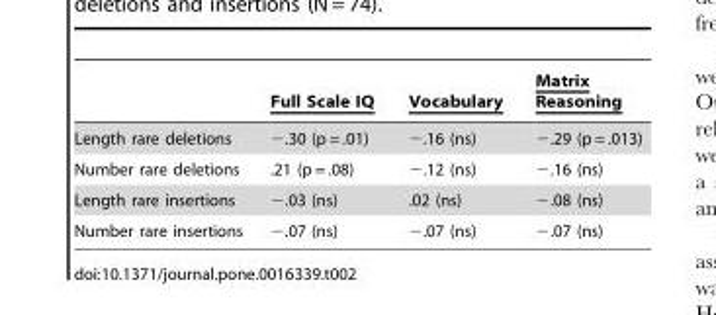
<table><thead><tr><td></td><td>Full Scale IQ</td><td>Vocabulary</td><td>Matrix Reasoning</td></tr></thead><tbody><tr><td>Length rare deletions</td><td>−.30 (p = .01)</td><td>−.16 (ns)</td><td>−.29 (p = .013)</td></tr><tr><td>Number rare deletions</td><td>.21 (p = .08)</td><td>−.12 (ns)</td><td>−.16 (ns)</td></tr><tr><td>Length rare insertions</td><td>−.03 (ns)</td><td>.02 (ns)</td><td>−.08 (ns)</td></tr><tr><td>Number rare insertions</td><td>−.07 (ns)</td><td>−.07 (ns)</td><td>−.07 (ns)</td></tr></tbody></table>